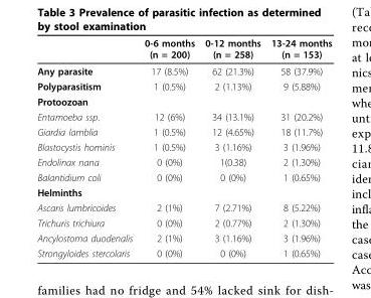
<table><thead><tr><td></td><td>0-6 months (n = 200)</td><td>0-12 months (n = 258)</td><td>13-24 months (n = 153)</td></tr></thead><tbody><tr><td>Any parasite</td><td>17 (8.5%)</td><td>62 (21.3%)</td><td>58 (37.9%)</td></tr><tr><td>Polyparasitism</td><td>1 (0.5%)</td><td>2 (1.13%)</td><td>9 (5.88%)</td></tr><tr><td colspan="4">Protoozoan</td></tr><tr><td>Entamoeba ssp.</td><td>12 (6%)</td><td>34 (13.1%)</td><td>31 (20.2%)</td></tr><tr><td>Giardia lamblia</td><td>1 (0.5%)</td><td>12 (4.65%)</td><td>18 (11.7%)</td></tr><tr><td>Blastocystis hominis</td><td>1 (0.5%)</td><td>3 (1.16%)</td><td>3 (1.96%)</td></tr><tr><td>Endolinax nana</td><td>0 (0%)</td><td>1(0.38)</td><td>2 (1.30%)</td></tr><tr><td>Balantidium coli</td><td>0 (0%)</td><td>0 (0%)</td><td>1 (0.65%)</td></tr><tr><td colspan="4">Helminths</td></tr><tr><td>Ascaris lumbricoides</td><td>2 (1%)</td><td>7 (2.71%)</td><td>8 (5.22%)</td></tr><tr><td>Trichuris trichiura</td><td>0 (0%)</td><td>2 (0.77%)</td><td>2 (1.30%)</td></tr><tr><td>Ancylostoma duodenalis</td><td>2 (1%)</td><td>3 (1.16%)</td><td>3 (1.96%)</td></tr><tr><td>Strongyloides stercolaris</td><td>0 (0%)</td><td>0 (0%)</td><td>1 (0.65%)</td></tr></tbody></table>